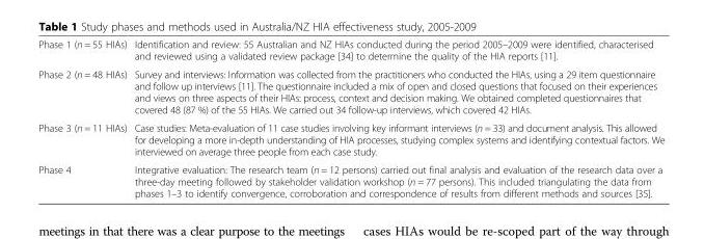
<table><tbody><tr><td>Phase 1 (n = 55 HIAs)</td><td>Identification and review: 55 Australian and NZ HIAs conducted during the period 2005–2009 were identified, characterised and reviewed using a validated review package [34] to determine the quality of the HIA reports [11].</td></tr><tr><td>Phase 2 (n = 48 HIAs)</td><td>Survey and interviews: Information was collected from the practitioners who conducted the HIAs, using a 29 item questionnaire and follow up interviews [11]. The questionnaire included a mix of open and closed questions that focused on their experiences and views on three aspects of their HIAs: process, context and decision making. We obtained completed questionnaires that covered 48 (87 %) of the 55 HIAs. We carried out 34 follow-up interviews, which covered 42 HIAs.</td></tr><tr><td>Phase 3 (n = 11 HIAs)</td><td>Case studies: Meta-evaluation of 11 case studies involving key informant interviews (n = 33) and document analysis. This allowed for developing a more in-depth understanding of HIA processes, studying complex systems and identifying contextual factors. We interviewed on average three people from each case study.</td></tr><tr><td>Phase 4</td><td>Integrative evaluation: The research team (n = 12 persons) carried out final analysis and evaluation of the research data over a three-day meeting followed by stakeholder validation workshop (n = 77 persons). This included triangulating the data from phases 1–3 to identify convergence, corroboration and correspondence of results from different methods and sources [35].</td></tr></tbody></table>